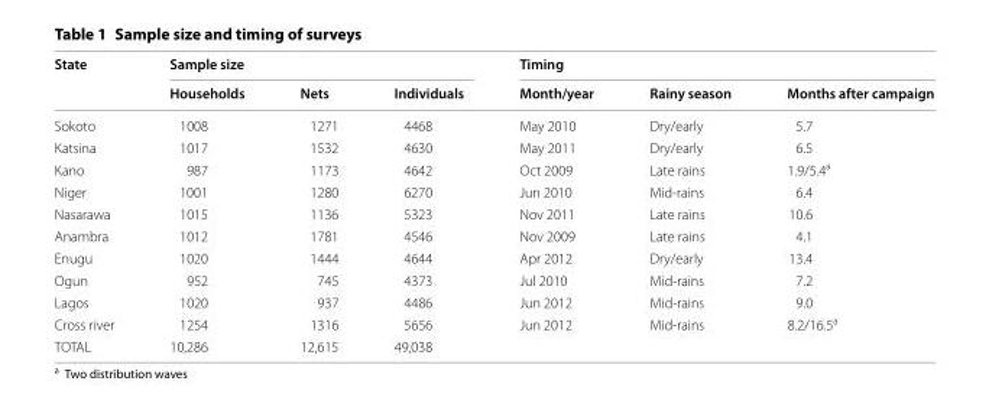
<table><thead><tr><td rowspan="2">State</td><td colspan="3">Sample size</td><td colspan="3">Timing</td></tr><tr><td>Households</td><td>Nets</td><td>Individuals</td><td>Month/year</td><td>Rainy season</td><td>Months after campaign</td></tr></thead><tbody><tr><td>Sokoto</td><td>1008</td><td>1271</td><td>4468</td><td>May 2010</td><td>Dry/early</td><td>5.7</td></tr><tr><td>Katsina</td><td>1017</td><td>1532</td><td>4630</td><td>May 2011</td><td>Dry/early</td><td>6.5</td></tr><tr><td>Kano</td><td>987</td><td>1173</td><td>4642</td><td>Oct 2009</td><td>Late rains</td><td>1.9/5.4<sup>a</sup></td></tr><tr><td>Niger</td><td>1001</td><td>1280</td><td>6270</td><td>Jun 2010</td><td>Mid-rains</td><td>6.4</td></tr><tr><td>Nasarawa</td><td>1015</td><td>1136</td><td>5323</td><td>Nov 2011</td><td>Late rains</td><td>10.6</td></tr><tr><td>Anambra</td><td>1012</td><td>1781</td><td>4546</td><td>Nov 2009</td><td>Late rains</td><td>4.1</td></tr><tr><td>Enugu</td><td>1020</td><td>1444</td><td>4644</td><td>Apr 2012</td><td>Dry/early</td><td>13.4</td></tr><tr><td>Ogun</td><td>952</td><td>745</td><td>4373</td><td>Jul 2010</td><td>Mid-rains</td><td>7.2</td></tr><tr><td>Lagos</td><td>1020</td><td>937</td><td>4486</td><td>Jun 2012</td><td>Mid-rains</td><td>9.0</td></tr><tr><td>Cross river</td><td>1254</td><td>1316</td><td>5656</td><td>Jun 2012</td><td>Mid-rains</td><td>8.2/16.5<sup>a</sup></td></tr><tr><td>TOTAL</td><td>10,286</td><td>12,615</td><td>49,038</td><td></td><td></td><td></td></tr></tbody></table>